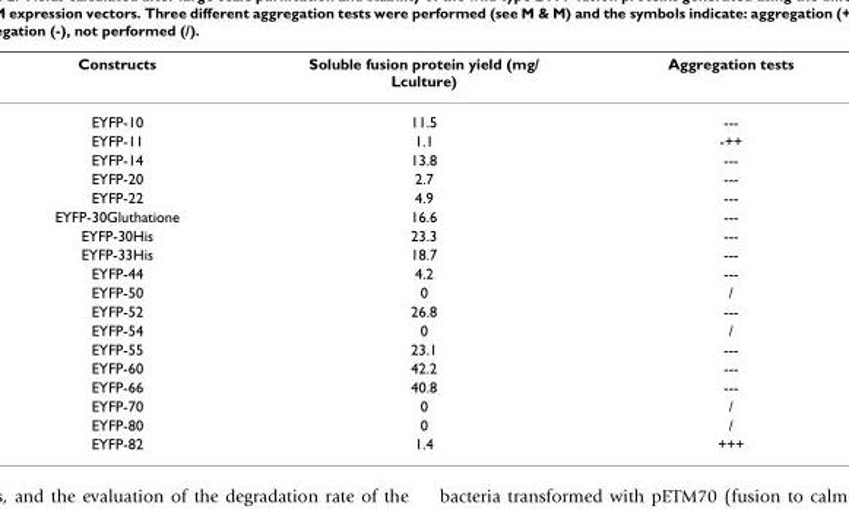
<table><thead><tr><td>Constructs</td><td>Soluble fusion protein yield (mg/ Lculture)</td><td>Aggregation tests</td></tr></thead><tbody><tr><td>EYFP-10</td><td>11.5</td><td>---</td></tr><tr><td>EYFP-11</td><td>1.1</td><td>-++</td></tr><tr><td>EYFP-14</td><td>13.8</td><td>---</td></tr><tr><td>EYFP-20</td><td>2.7</td><td>---</td></tr><tr><td>EYFP-22</td><td>4.9</td><td>---</td></tr><tr><td>EYFP-30Gluthatione</td><td>16.6</td><td>---</td></tr><tr><td>EYFP-30His</td><td>23.3</td><td>---</td></tr><tr><td>EYFP-33His</td><td>18.7</td><td>---</td></tr><tr><td>EYFP-44</td><td>4.2</td><td>---</td></tr><tr><td>EYFP-50</td><td>0</td><td>/</td></tr><tr><td>EYFP-52</td><td>26.8</td><td>---</td></tr><tr><td>EYFP-54</td><td>0</td><td>/</td></tr><tr><td>EYFP-55</td><td>23.1</td><td>---</td></tr><tr><td>EYFP-60</td><td>42.2</td><td>---</td></tr><tr><td>EYFP-66</td><td>40.8</td><td>---</td></tr><tr><td>EYFP-70</td><td>0</td><td>/</td></tr><tr><td>EYFP-80</td><td>0</td><td>/</td></tr><tr><td>EYFP-82</td><td>1.4</td><td>+++</td></tr></tbody></table>